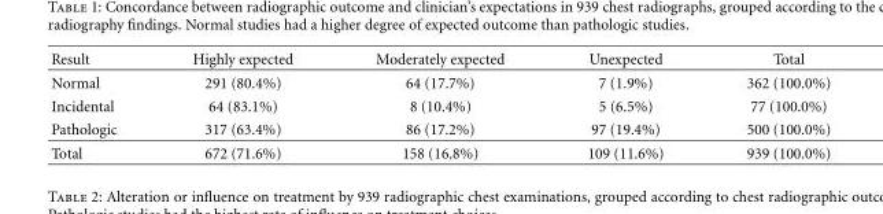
<table><thead><tr><td>Result</td><td>Highly expected</td><td>Moderately expected</td><td>Unexpected</td><td>Total</td></tr></thead><tbody><tr><td>Normal</td><td>291 (80.4%)</td><td>64 (17.7%)</td><td>7 (1.9%)</td><td>362 (100.0%)</td></tr><tr><td>Incidental</td><td>64 (83.1%)</td><td>8 (10.4%)</td><td>5 (6.5%)</td><td>77 (100.0%)</td></tr><tr><td>Pathologic</td><td>317 (63.4%)</td><td>86 (17.2%)</td><td>97 (19.4%)</td><td>500 (100.0%)</td></tr><tr><td>Total</td><td>672 (71.6%)</td><td>158 (16.8%)</td><td>109 (11.6%)</td><td>939 (100.0%)</td></tr></tbody></table>